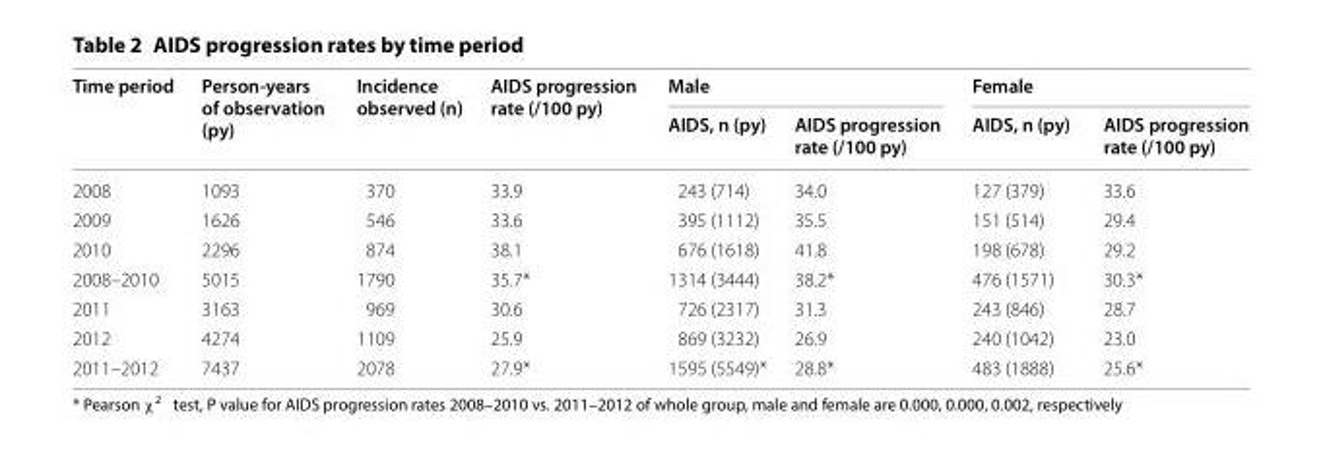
<table><thead><tr><td rowspan="2">Time period</td><td rowspan="2">Person-years of observation (py)</td><td rowspan="2">Incidence observed (n)</td><td rowspan="2">AIDS progression rate (/100 py)</td><td colspan="2">Male</td><td colspan="2">Female</td></tr><tr><td>AIDS, n (py)</td><td>AIDS progression rate (/100 py)</td><td>AIDS, n (py)</td><td>AIDS progression rate (/100 py)</td></tr></thead><tbody><tr><td>2008</td><td>1093</td><td>370</td><td>33.9</td><td>243 (714)</td><td>34.0</td><td>127 (379)</td><td>33.6</td></tr><tr><td>2009</td><td>1626</td><td>546</td><td>33.6</td><td>395 (1112)</td><td>35.5</td><td>151 (514)</td><td>29.4</td></tr><tr><td>2010</td><td>2296</td><td>874</td><td>38.1</td><td>676 (1618)</td><td>41.8</td><td>198 (678)</td><td>29.2</td></tr><tr><td>2008–2010</td><td>5015</td><td>1790</td><td>35.7*</td><td>1314 (3444)</td><td>38.2*</td><td>476 (1571)</td><td>30.3*</td></tr><tr><td>2011</td><td>3163</td><td>969</td><td>30.6</td><td>726 (2317)</td><td>31.3</td><td>243 (846)</td><td>28.7</td></tr><tr><td>2012</td><td>4274</td><td>1109</td><td>25.9</td><td>869 (3232)</td><td>26.9</td><td>240 (1042)</td><td>23.0</td></tr><tr><td>2011–2012</td><td>7437</td><td>2078</td><td>27.9*</td><td>1595 (5549)*</td><td>28.8*</td><td>483 (1888)</td><td>25.6*</td></tr></tbody></table>